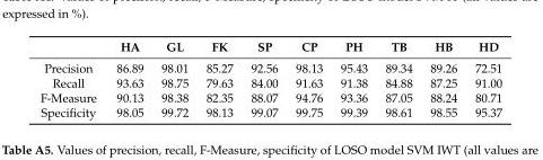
<table><thead><tr><td></td><td>HA</td><td>GL</td><td>FK</td><td>SP</td><td>CP</td><td>PH</td><td>TB</td><td>HB</td><td>HD</td></tr></thead><tbody><tr><td>Precision</td><td>86.89</td><td>98.01</td><td>85.27</td><td>92.56</td><td>98.13</td><td>95.43</td><td>89.34</td><td>89.26</td><td>72.51</td></tr><tr><td>Recall</td><td>93.63</td><td>98.75</td><td>79.63</td><td>84.00</td><td>91.63</td><td>91.38</td><td>84.88</td><td>87.25</td><td>91.00</td></tr><tr><td>F-Measure</td><td>90.13</td><td>98.38</td><td>82.35</td><td>88.07</td><td>94.76</td><td>93.36</td><td>87.05</td><td>88.24</td><td>80.71</td></tr><tr><td>Specificity</td><td>98.05</td><td>99.72</td><td>98.13</td><td>99.07</td><td>99.75</td><td>99.39</td><td>98.61</td><td>98.55</td><td>95.37</td></tr></tbody></table>